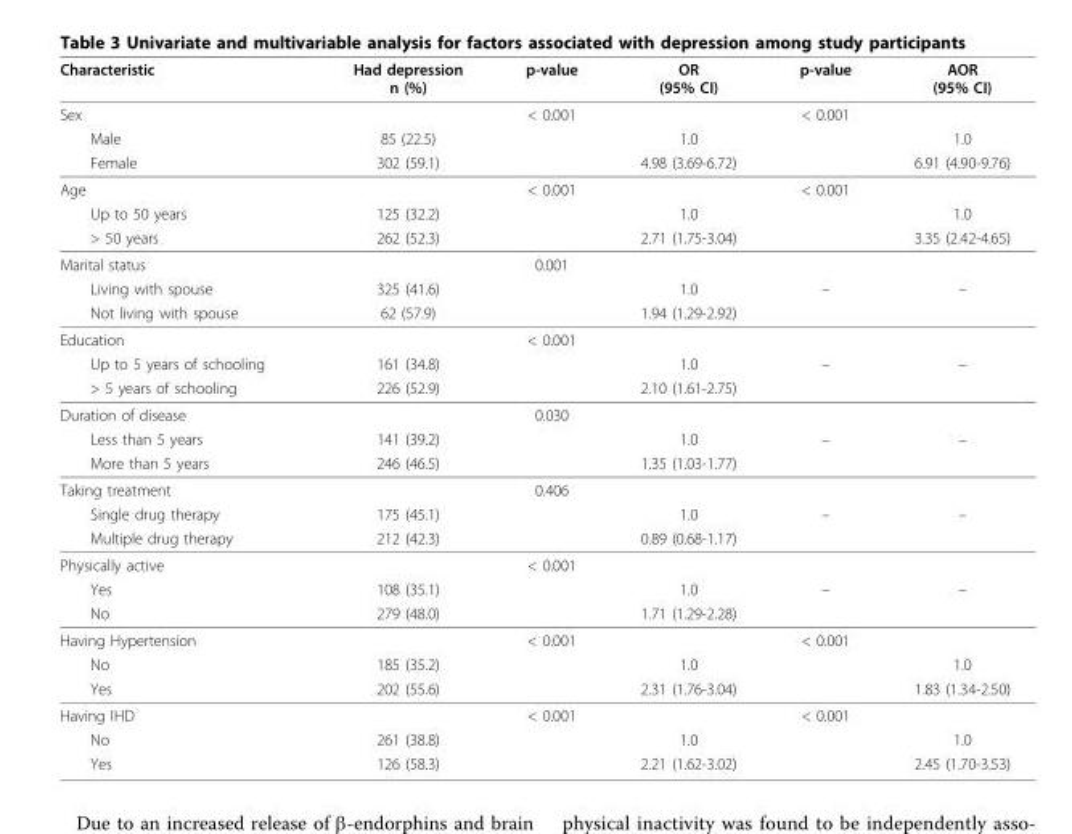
<table><thead><tr><td>Characteristic</td><td>Had depression n (%)</td><td>p-value</td><td>OR (95% CI)</td><td>p-value</td><td>AOR (95% CI)</td></tr></thead><tbody><tr><td>Sex</td><td></td><td>&lt; 0.001</td><td></td><td>&lt; 0.001</td><td></td></tr><tr><td>Male</td><td>85 (22.5)</td><td></td><td>1.0</td><td></td><td>1.0</td></tr><tr><td>Female</td><td>302 (59.1)</td><td></td><td>4.98 (3.69-6.72)</td><td></td><td>6.91 (4.90-9.76)</td></tr><tr><td>Age</td><td></td><td>&lt; 0.001</td><td></td><td>&lt; 0.001</td><td></td></tr><tr><td>Up to 50 years</td><td>125 (32.2)</td><td></td><td>1.0</td><td></td><td>1.0</td></tr><tr><td>&gt; 50 years</td><td>262 (52.3)</td><td></td><td>2.71 (1.75-3.04)</td><td></td><td>3.35 (2.42-4.65)</td></tr><tr><td>Marital status</td><td></td><td>0.001</td><td></td><td></td><td></td></tr><tr><td>Living with spouse</td><td>325 (41.6)</td><td></td><td>1.0</td><td>–</td><td>–</td></tr><tr><td>Not living with spouse</td><td>62 (57.9)</td><td></td><td>1.94 (1.29-2.92)</td><td></td><td></td></tr><tr><td>Education</td><td></td><td>&lt; 0.001</td><td></td><td></td><td></td></tr><tr><td>Up to 5 years of schooling</td><td>161 (34.8)</td><td></td><td>1.0</td><td>–</td><td>–</td></tr><tr><td>&gt; 5 years of schooling</td><td>226 (52.9)</td><td></td><td>2.10 (1.61-2.75)</td><td></td><td></td></tr><tr><td>Duration of disease</td><td></td><td>0.030</td><td></td><td></td><td></td></tr><tr><td>Less than 5 years</td><td>141 (39.2)</td><td></td><td>1.0</td><td>–</td><td>–</td></tr><tr><td>More than 5 years</td><td>246 (46.5)</td><td></td><td>1.35 (1.03-1.77)</td><td></td><td></td></tr><tr><td>Taking treatment</td><td></td><td>0.406</td><td></td><td></td><td></td></tr><tr><td>Single drug therapy</td><td>175 (45.1)</td><td></td><td>1.0</td><td>–</td><td>–</td></tr><tr><td>Multiple drug therapy</td><td>212 (42.3)</td><td></td><td>0.89 (0.68-1.17)</td><td></td><td></td></tr><tr><td>Physically active</td><td></td><td>&lt; 0.001</td><td></td><td></td><td></td></tr><tr><td>Yes</td><td>108 (35.1)</td><td></td><td>1.0</td><td>–</td><td>–</td></tr><tr><td>No</td><td>279 (48.0)</td><td></td><td>1.71 (1.29-2.28)</td><td></td><td></td></tr><tr><td>Having Hypertension</td><td></td><td>&lt; 0.001</td><td></td><td>&lt; 0.001</td><td></td></tr><tr><td>No</td><td>185 (35.2)</td><td></td><td>1.0</td><td></td><td>1.0</td></tr><tr><td>Yes</td><td>202 (55.6)</td><td></td><td>2.31 (1.76-3.04)</td><td></td><td>1.83 (1.34-2.50)</td></tr><tr><td>Having IHD</td><td></td><td>&lt; 0.001</td><td></td><td>&lt; 0.001</td><td></td></tr><tr><td>No</td><td>261 (38.8)</td><td></td><td>1.0</td><td></td><td>1.0</td></tr><tr><td>Yes</td><td>126 (58.3)</td><td></td><td>2.21 (1.62-3.02)</td><td></td><td>2.45 (1.70-3.53)</td></tr></tbody></table>